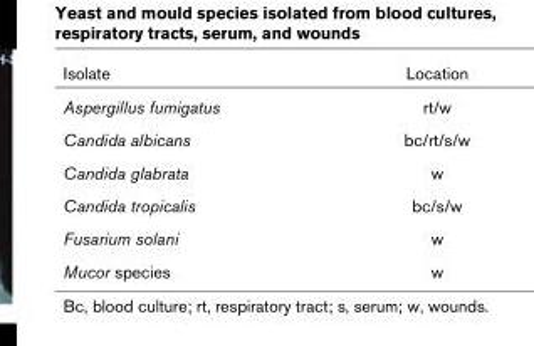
<table><thead><tr><td>Isolate</td><td>Location</td></tr></thead><tbody><tr><td>Aspergillus fumigatus</td><td>rt/w</td></tr><tr><td>Candida albicans</td><td>bc/rt/s/w</td></tr><tr><td>Candida glabrata</td><td>w</td></tr><tr><td>Candida tropicalis</td><td>bc/s/w</td></tr><tr><td>Fusarium solani</td><td>w</td></tr><tr><td>Mucor species</td><td>w</td></tr></tbody></table>